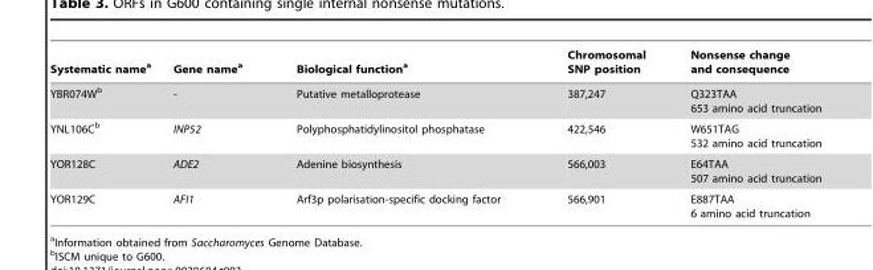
<table><thead><tr><td>Systematic name<sup>a</sup></td><td>Gene name<sup>a</sup></td><td>Biological function<sup>a</sup></td><td>Chromosomal SNP position</td><td>Nonsense change and consequence</td></tr></thead><tbody><tr><td>YBR074W<sup>b</sup></td><td>-</td><td>Putative metalloprotease</td><td>387,247</td><td>Q323TAA 653 amino acid truncation</td></tr><tr><td>YNL106C<sup>b</sup></td><td>INP52</td><td>Polyphosphatidylinositol phosphatase</td><td>422,546</td><td>W651TAG 532 amino acid truncation</td></tr><tr><td>YOR128C</td><td>ADE2</td><td>Adenine biosynthesis</td><td>566,003</td><td>E64TAA 507 amino acid truncation</td></tr><tr><td>YOR129C</td><td>AFI1</td><td>Arf3p polarisation-specific docking factor</td><td>566,901</td><td>E887TAA 6 amino acid truncation</td></tr></tbody></table>